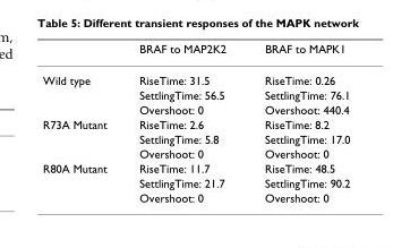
<table><thead><tr><td></td><td>BRAF to MAP2K2</td><td>BRAF to MAPK1</td></tr></thead><tbody><tr><td rowspan="3">Wild type</td><td>RiseTime: 31.5</td><td>RiseTime: 0.26</td></tr><tr><td>SettlingTime: 56.5</td><td>SettlingTime: 76.1</td></tr><tr><td>Overshoot: 0</td><td>Overshoot: 440.4</td></tr><tr><td rowspan="3">R73A Mutant</td><td>RiseTime: 2.6</td><td>RiseTime: 8.2</td></tr><tr><td>SettlingTime: 5.8</td><td>SettlingTime: 17.0</td></tr><tr><td>Overshoot: 0</td><td>Overshoot: 0</td></tr><tr><td rowspan="3">R80A Mutant</td><td>RiseTime: 11.7</td><td>RiseTime: 48.5</td></tr><tr><td>SettlingTime: 21.7</td><td>SettlingTime: 90.2</td></tr><tr><td>Overshoot: 0</td><td>Overshoot: 0</td></tr></tbody></table>